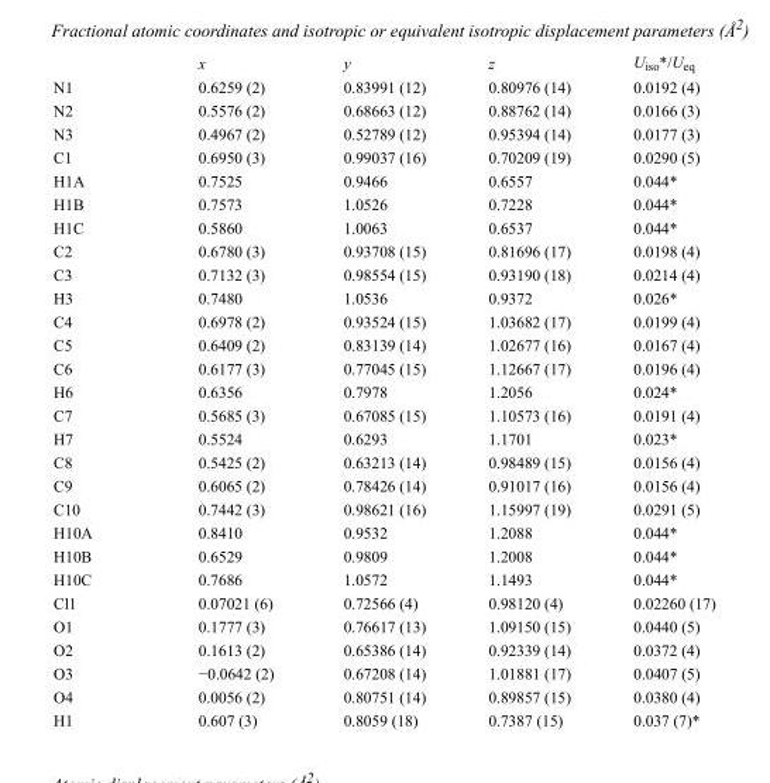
<table><thead><tr><td></td><td>x</td><td>y</td><td>z</td><td>U<sub>iso</sub>*/U<sub>eq</sub></td></tr></thead><tbody><tr><td>N1</td><td>0.6259 (2)</td><td>0.83991 (12)</td><td>0.80976 (14)</td><td>0.0192 (4)</td></tr><tr><td>N2</td><td>0.5576 (2)</td><td>0.68663 (12)</td><td>0.88762 (14)</td><td>0.0166 (3)</td></tr><tr><td>N3</td><td>0.4967 (2)</td><td>0.52789 (12)</td><td>0.95394 (14)</td><td>0.0177 (3)</td></tr><tr><td>C1</td><td>0.6950 (3)</td><td>0.99037 (16)</td><td>0.70209 (19)</td><td>0.0290 (5)</td></tr><tr><td>H1A</td><td>0.7525</td><td>0.9466</td><td>0.6557</td><td>0.044*</td></tr><tr><td>H1B</td><td>0.7573</td><td>1.0526</td><td>0.7228</td><td>0.044*</td></tr><tr><td>H1C</td><td>0.5860</td><td>1.0063</td><td>0.6537</td><td>0.044*</td></tr><tr><td>C2</td><td>0.6780 (3)</td><td>0.93708 (15)</td><td>0.81696 (17)</td><td>0.0198 (4)</td></tr><tr><td>C3</td><td>0.7132 (3)</td><td>0.98554 (15)</td><td>0.93190 (18)</td><td>0.0214 (4)</td></tr><tr><td>H3</td><td>0.7480</td><td>1.0536</td><td>0.9372</td><td>0.026*</td></tr><tr><td>C4</td><td>0.6978 (2)</td><td>0.93524 (15)</td><td>1.03682 (17)</td><td>0.0199 (4)</td></tr><tr><td>C5</td><td>0.6409 (2)</td><td>0.83139 (14)</td><td>1.02677 (16)</td><td>0.0167 (4)</td></tr><tr><td>C6</td><td>0.6177 (3)</td><td>0.77045 (15)</td><td>1.12667 (17)</td><td>0.0196 (4)</td></tr><tr><td>H6</td><td>0.6356</td><td>0.7978</td><td>1.2056</td><td>0.024*</td></tr><tr><td>C7</td><td>0.5685 (3)</td><td>0.67085 (15)</td><td>1.10573 (16)</td><td>0.0191 (4)</td></tr><tr><td>H7</td><td>0.5524</td><td>0.6293</td><td>1.1701</td><td>0.023*</td></tr><tr><td>C8</td><td>0.5425 (2)</td><td>0.63213 (14)</td><td>0.98489 (15)</td><td>0.0156 (4)</td></tr><tr><td>C9</td><td>0.6065 (2)</td><td>0.78426 (14)</td><td>0.91017 (16)</td><td>0.0156 (4)</td></tr><tr><td>C10</td><td>0.7442 (3)</td><td>0.98621 (16)</td><td>1.15997 (19)</td><td>0.0291 (5)</td></tr><tr><td>H10A</td><td>0.8410</td><td>0.9532</td><td>1.2088</td><td>0.044*</td></tr><tr><td>H10B</td><td>0.6529</td><td>0.9809</td><td>1.2008</td><td>0.044*</td></tr><tr><td>H10C</td><td>0.7686</td><td>1.0572</td><td>1.1493</td><td>0.044*</td></tr><tr><td>Cl1</td><td>0.07021 (6)</td><td>0.72566 (4)</td><td>0.98120 (4)</td><td>0.02260 (17)</td></tr><tr><td>O1</td><td>0.1777 (3)</td><td>0.76617 (13)</td><td>1.09150 (15)</td><td>0.0440 (5)</td></tr><tr><td>O2</td><td>0.1613 (2)</td><td>0.65386 (14)</td><td>0.92339 (14)</td><td>0.0372 (4)</td></tr><tr><td>O3</td><td>−0.0642 (2)</td><td>0.67208 (14)</td><td>1.01881 (17)</td><td>0.0407 (5)</td></tr><tr><td>O4</td><td>0.0056 (2)</td><td>0.80751 (14)</td><td>0.89857 (15)</td><td>0.0380 (4)</td></tr><tr><td>H1</td><td>0.607 (3)</td><td>0.8059 (18)</td><td>0.7387 (15)</td><td>0.037 (7)*</td></tr></tbody></table>